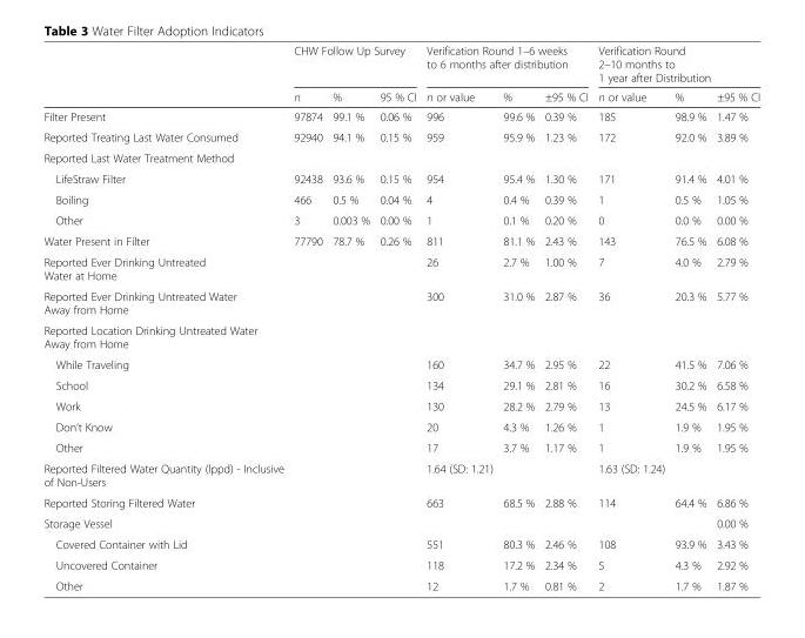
<table><thead><tr><td rowspan="2"></td><td colspan="3">CHW Follow Up Survey</td><td colspan="3">Verification Round 1–6 weeks to 6 months after distribution</td><td colspan="3">Verification Round 2–10 months to 1 year after Distribution</td></tr><tr><td>n</td><td>%</td><td>95 % CI</td><td>n or value</td><td>%</td><td>±95 % CI</td><td>n or value</td><td>%</td><td>±95 % CI</td></tr></thead><tbody><tr><td>Filter Present</td><td>97874</td><td>99.1 %</td><td>0.06 %</td><td>996</td><td>99.6 %</td><td>0.39 %</td><td>185</td><td>98.9 %</td><td>1.47 %</td></tr><tr><td>Reported Treating Last Water Consumed</td><td>92940</td><td>94.1 %</td><td>0.15 %</td><td>959</td><td>95.9 %</td><td>1.23 %</td><td>172</td><td>92.0 %</td><td>3.89 %</td></tr><tr><td colspan="10">Reported Last Water Treatment Method</td></tr><tr><td>LifeStraw Filter</td><td>92438</td><td>93.6 %</td><td>0.15 %</td><td>954</td><td>95.4 %</td><td>1.30 %</td><td>171</td><td>91.4 %</td><td>4.01 %</td></tr><tr><td>Boiling</td><td>466</td><td>0.5 %</td><td>0.04 %</td><td>4</td><td>0.4 %</td><td>0.39 %</td><td>1</td><td>0.5 %</td><td>1.05 %</td></tr><tr><td>Other</td><td>3</td><td>0.003 %</td><td>0.00 %</td><td>1</td><td>0.1 %</td><td>0.20 %</td><td>0</td><td>0.0 %</td><td>0.00 %</td></tr><tr><td>Water Present in Filter</td><td>77790</td><td>78.7 %</td><td>0.26 %</td><td>811</td><td>81.1 %</td><td>2.43 %</td><td>143</td><td>76.5 %</td><td>6.08 %</td></tr><tr><td>Reported Ever Drinking Untreated Water at Home</td><td></td><td></td><td></td><td>26</td><td>2.7 %</td><td>1.00 %</td><td>7</td><td>4.0 %</td><td>2.79 %</td></tr><tr><td>Reported Ever Drinking Untreated Water Away from Home</td><td></td><td></td><td></td><td>300</td><td>31.0 %</td><td>2.87 %</td><td>36</td><td>20.3 %</td><td>5.77 %</td></tr><tr><td colspan="10">Reported Location Drinking Untreated Water Away from Home</td></tr><tr><td>While Traveling</td><td></td><td></td><td></td><td>160</td><td>34.7 %</td><td>2.95 %</td><td>22</td><td>41.5 %</td><td>7.06 %</td></tr><tr><td>School</td><td></td><td></td><td></td><td>134</td><td>29.1 %</td><td>2.81 %</td><td>16</td><td>30.2 %</td><td>6.58 %</td></tr><tr><td>Work</td><td></td><td></td><td></td><td>130</td><td>28.2 %</td><td>2.79 %</td><td>13</td><td>24.5 %</td><td>6.17 %</td></tr><tr><td>Don’t Know</td><td></td><td></td><td></td><td>20</td><td>4.3 %</td><td>1.26 %</td><td>1</td><td>1.9 %</td><td>1.95 %</td></tr><tr><td>Other</td><td></td><td></td><td></td><td>17</td><td>3.7 %</td><td>1.17 %</td><td>1</td><td>1.9 %</td><td>1.95 %</td></tr><tr><td>Reported Filtered Water Quantity (lppd) - Inclusive of Non-Users</td><td></td><td></td><td></td><td>1.64 (SD: 1.21)</td><td></td><td></td><td>1.63 (SD: 1.24)</td><td></td><td></td></tr><tr><td>Reported Storing Filtered Water</td><td></td><td></td><td></td><td>663</td><td>68.5 %</td><td>2.88 %</td><td>114</td><td>64.4 %</td><td>6.86 %</td></tr><tr><td>Storage Vessel</td><td></td><td></td><td></td><td></td><td></td><td></td><td></td><td></td><td>0.00 %</td></tr><tr><td>Covered Container with Lid</td><td></td><td></td><td></td><td>551</td><td>80.3 %</td><td>2.46 %</td><td>108</td><td>93.9 %</td><td>3.43 %</td></tr><tr><td>Uncovered Container</td><td></td><td></td><td></td><td>118</td><td>17.2 %</td><td>2.34 %</td><td>5</td><td>4.3 %</td><td>2.92 %</td></tr><tr><td>Other</td><td></td><td></td><td></td><td>12</td><td>1.7 %</td><td>0.81 %</td><td>2</td><td>1.7 %</td><td>1.87 %</td></tr></tbody></table>